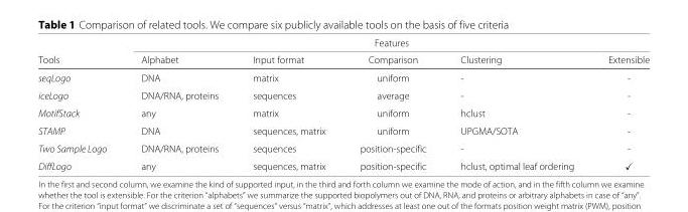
<table><thead><tr><td rowspan="2">Tools</td><td colspan="5">Features</td></tr><tr><td>Alphabet</td><td>Input format</td><td>Comparison</td><td>Clustering</td><td>Extensible</td></tr></thead><tbody><tr><td>seqLogo</td><td>DNA</td><td>matrix</td><td>uniform</td><td>-</td><td>-</td></tr><tr><td>iceLogo</td><td>DNA/RNA, proteins</td><td>sequences</td><td>average</td><td>-</td><td>-</td></tr><tr><td>MotifStack</td><td>any</td><td>matrix</td><td>uniform</td><td>hclust</td><td>-</td></tr><tr><td>STAMP</td><td>DNA</td><td>sequences, matrix</td><td>uniform</td><td>UPGMA/SOTA</td><td>-</td></tr><tr><td>Two Sample Logo</td><td>DNA/RNA, proteins</td><td>sequences</td><td>position-specific</td><td>-</td><td>-</td></tr><tr><td>DiffLogo</td><td>any</td><td>sequences, matrix</td><td>position-specific</td><td>hclust, optimal leaf ordering</td><td>✓</td></tr></tbody></table>